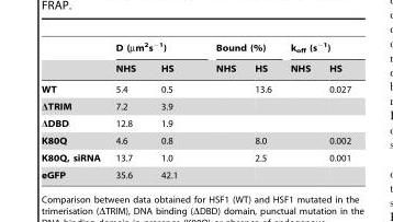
<table><thead><tr><td rowspan="2"></td><td colspan="2">D (µm<sup>2</sup>s<sup>−1</sup>)</td><td colspan="2">Bound (%)</td><td colspan="2">k<sub>off</sub> (s<sup>−1</sup>)</td></tr><tr><td>NHS</td><td>HS</td><td>NHS</td><td>HS</td><td>NHS</td><td>HS</td></tr></thead><tbody><tr><td>WT</td><td>5.4</td><td>0.5</td><td></td><td>13.6</td><td></td><td>0.027</td></tr><tr><td>ΔTRIM</td><td>7.2</td><td>3.9</td><td></td><td></td><td></td><td></td></tr><tr><td>ΔDBD</td><td>12.8</td><td>1.9</td><td></td><td></td><td></td><td></td></tr><tr><td>K80Q</td><td>4.6</td><td>0.8</td><td></td><td>8.0</td><td></td><td>0.002</td></tr><tr><td>K80Q, siRNA</td><td>13.7</td><td>1.0</td><td></td><td>2.5</td><td></td><td>0.001</td></tr><tr><td>eGFP</td><td>35.6</td><td>42.1</td><td></td><td></td><td></td><td></td></tr></tbody></table>